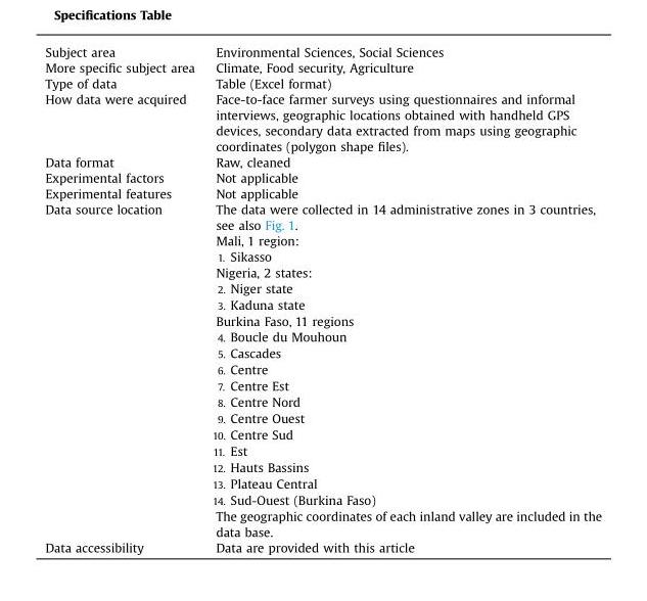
<table><tbody><tr><td>Subject area</td><td>Environmental Sciences, Social Sciences</td></tr><tr><td>More specific subject area</td><td>Climate, Food security, Agriculture</td></tr><tr><td>Type of data</td><td>Table (Excel format)</td></tr><tr><td>How data were acquired</td><td>Face-to-face farmer surveys using questionnaires and informal interviews, geographic locations obtained with handheld GPS devices, secondary data extracted from maps using geographic coordinates (polygon shape files).</td></tr><tr><td>Data format</td><td>Raw, cleaned</td></tr><tr><td>Experimental factors</td><td>Not applicable</td></tr><tr><td>Experimental features</td><td>Not applicable</td></tr><tr><td rowspan="19">Data source location</td><td>The data were collected in 14 administrative zones in 3 countries, see also Fig. 1.</td></tr><tr><td>Mali, 1 region:</td></tr><tr><td>1. Sikasso</td></tr><tr><td>Nigeria, 2 states:</td></tr><tr><td>2. Niger state</td></tr><tr><td>3. Kaduna state</td></tr><tr><td>Burkina Faso, 11 regions</td></tr><tr><td>4. Boucle du Mouhoun</td></tr><tr><td>5. Cascades</td></tr><tr><td>6. Centre</td></tr><tr><td>7. Centre Est</td></tr><tr><td>8. Centre Nord</td></tr><tr><td>9. Centre Ouest</td></tr><tr><td>10. Centre Sud</td></tr><tr><td>11. Est</td></tr><tr><td>12. Hauts Bassins</td></tr><tr><td>13. Plateau Central</td></tr><tr><td>14. Sud-Ouest (Burkina Faso)</td></tr><tr><td>The geographic coordinates of each inland valley are included in the data base.</td></tr><tr><td>Data accessibility</td><td>Data are provided with this article</td></tr></tbody></table>